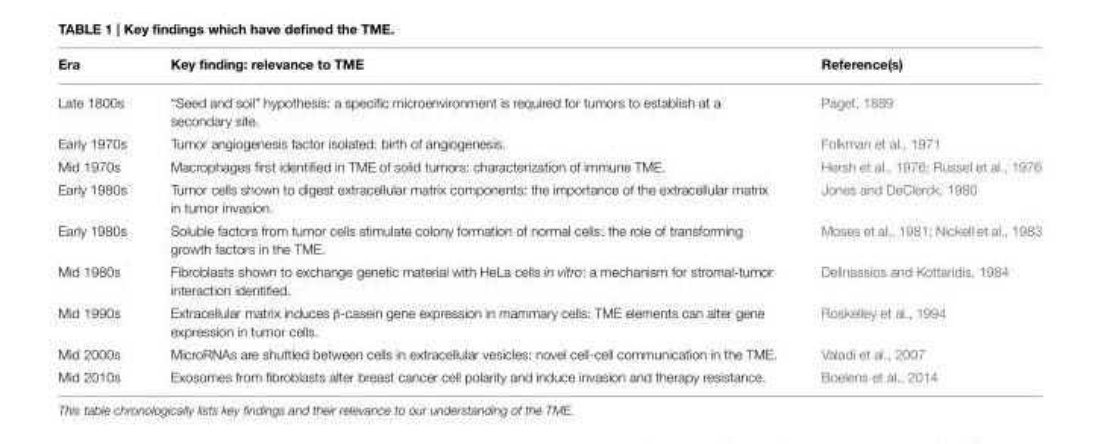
<table><thead><tr><td>Era</td><td>Key finding: relevance to TME</td><td>Reference(s)</td></tr></thead><tbody><tr><td>Late 1800s</td><td>“Seed and soil” hypothesis: a specific microenvironment is required for tumors to establish at a secondary site.</td><td>Paget, 1889</td></tr><tr><td>Early 1970s</td><td>Tumor angiogenesis factor isolated: birth of angiogenesis.</td><td>Folkman et al., 1971</td></tr><tr><td>Mid 1970s</td><td>Macrophages first identified in TME of solid tumors: characterization of immune TME.</td><td>Hersh et al., 1976; Russel et al., 1976</td></tr><tr><td>Early 1980s</td><td>Tumor cells shown to digest extracellular matrix components: the importance of the extracellular matrix in tumor invasion.</td><td>Jones and DeClerck, 1980</td></tr><tr><td>Early 1980s</td><td>Soluble factors from tumor cells stimulate colony formation of normal cells: the role of transforming growth factors in the TME.</td><td>Moses et al., 1981; Nickell et al., 1983</td></tr><tr><td>Mid 1980s</td><td>Fibroblasts shown to exchange genetic material with HeLa cells in vitro: a mechanism for stromal-tumor interaction identified.</td><td>Delinassios and Kottaridis, 1984</td></tr><tr><td>Mid 1990s</td><td>Extracellular matrix induces β-casein gene expression in mammary cells: TME elements can alter gene expression in tumor cells.</td><td>Roskelley et al., 1994</td></tr><tr><td>Mid 2000s</td><td>MicroRNAs are shuttled between cells in extracellular vesicles: novel cell-cell communication in the TME.</td><td>Valadi et al., 2007</td></tr><tr><td>Mid 2010s</td><td>Exosomes from fibroblasts alter breast cancer cell polarity and induce invasion and therapy resistance.</td><td>Boelens et al., 2014</td></tr></tbody></table>